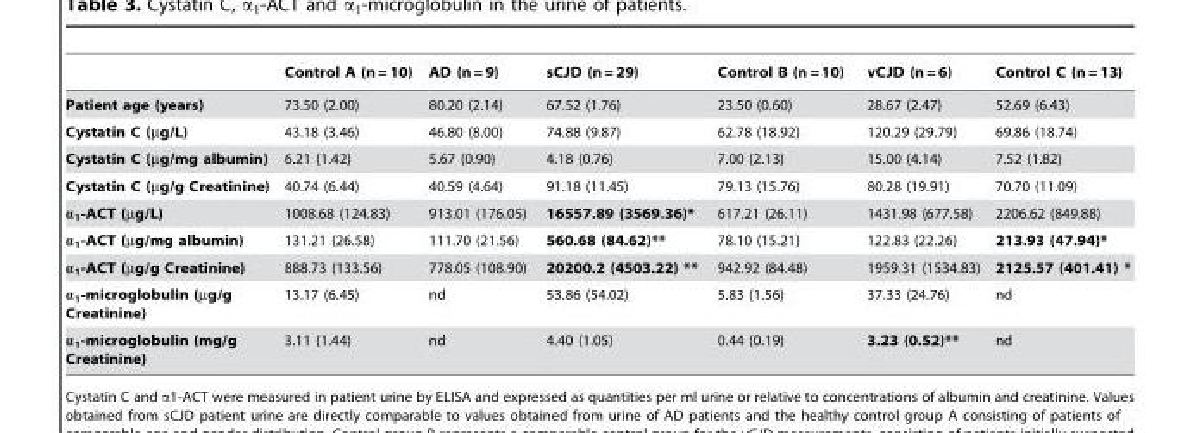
<table><thead><tr><td></td><td>Control A (n = 10)</td><td>AD (n = 9)</td><td>sCJD (n = 29)</td><td>Control B (n = 10)</td><td>vCJD (n = 6)</td><td>Control C (n = 13)</td></tr></thead><tbody><tr><td>Patient age (years)</td><td>73.50 (2.00)</td><td>80.20 (2.14)</td><td>67.52 (1.76)</td><td>23.50 (0.60)</td><td>28.67 (2.47)</td><td>52.69 (6.43)</td></tr><tr><td>Cystatin C (µg/L)</td><td>43.18 (3.46)</td><td>46.80 (8.00)</td><td>74.88 (9.87)</td><td>62.78 (18.92)</td><td>120.29 (29.79)</td><td>69.86 (18.74)</td></tr><tr><td>Cystatin C (µg/mg albumin)</td><td>6.21 (1.42)</td><td>5.67 (0.90)</td><td>4.18 (0.76)</td><td>7.00 (2.13)</td><td>15.00 (4.14)</td><td>7.52 (1.82)</td></tr><tr><td>Cystatin C (µg/g Creatinine)</td><td>40.74 (6.44)</td><td>40.59 (4.64)</td><td>91.18 (11.45)</td><td>79.13 (15.76)</td><td>80.28 (19.91)</td><td>70.70 (11.09)</td></tr><tr><td>α<sub>1</sub>-ACT (µg/L)</td><td>1008.68 (124.83)</td><td>913.01 (176.05)</td><td>16557.89 (3569.36)*</td><td>617.21 (26.11)</td><td>1431.98 (677.58)</td><td>2206.62 (849.88)</td></tr><tr><td>α<sub>1</sub>-ACT (µg/mg albumin)</td><td>131.21 (26.58)</td><td>111.70 (21.56)</td><td>560.68 (84.62)**</td><td>78.10 (15.21)</td><td>122.83 (22.26)</td><td>213.93 (47.94)*</td></tr><tr><td>α<sub>1</sub>-ACT (µg/g Creatinine)</td><td>888.73 (133.56)</td><td>778.05 (108.90)</td><td>20200.2 (4503.22) **</td><td>942.92 (84.48)</td><td>1959.31 (1534.83)</td><td>2125.57 (401.41) *</td></tr><tr><td>α<sub>1</sub>-microglobulin (µg/g Creatinine)</td><td>13.17 (6.45)</td><td>nd</td><td>53.86 (54.02)</td><td>5.83 (1.56)</td><td>37.33 (24.76)</td><td>nd</td></tr><tr><td>α<sub>1</sub>-microglobulin (mg/g Creatinine)</td><td>3.11 (1.44)</td><td>nd</td><td>4.40 (1.05)</td><td>0.44 (0.19)</td><td>3.23 (0.52)**</td><td>nd</td></tr></tbody></table>